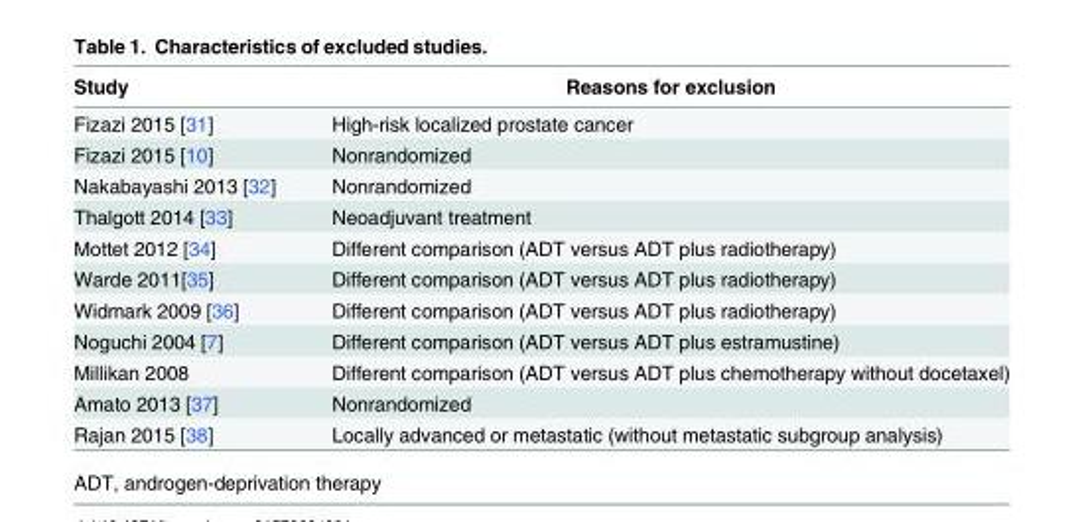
<table><thead><tr><td>Study</td><td>Reasons for exclusion</td></tr></thead><tbody><tr><td>Fizazi 2015 [31]</td><td>High-risk localized prostate cancer</td></tr><tr><td>Fizazi 2015 [10]</td><td>Nonrandomized</td></tr><tr><td>Nakabayashi 2013 [32]</td><td>Nonrandomized</td></tr><tr><td>Thalgott 2014 [33]</td><td>Neoadjuvant treatment</td></tr><tr><td>Mottet 2012 [34]</td><td>Different comparison (ADT versus ADT plus radiotherapy)</td></tr><tr><td>Warde 2011[35]</td><td>Different comparison (ADT versus ADT plus radiotherapy)</td></tr><tr><td>Widmark 2009 [36]</td><td>Different comparison (ADT versus ADT plus radiotherapy)</td></tr><tr><td>Noguchi 2004 [7]</td><td>Different comparison (ADT versus ADT plus estramustine)</td></tr><tr><td>Millikan 2008</td><td>Different comparison (ADT versus ADT plus chemotherapy without docetaxel)</td></tr><tr><td>Amato 2013 [37]</td><td>Nonrandomized</td></tr><tr><td>Rajan 2015 [38]</td><td>Locally advanced or metastatic (without metastatic subgroup analysis)</td></tr></tbody></table>